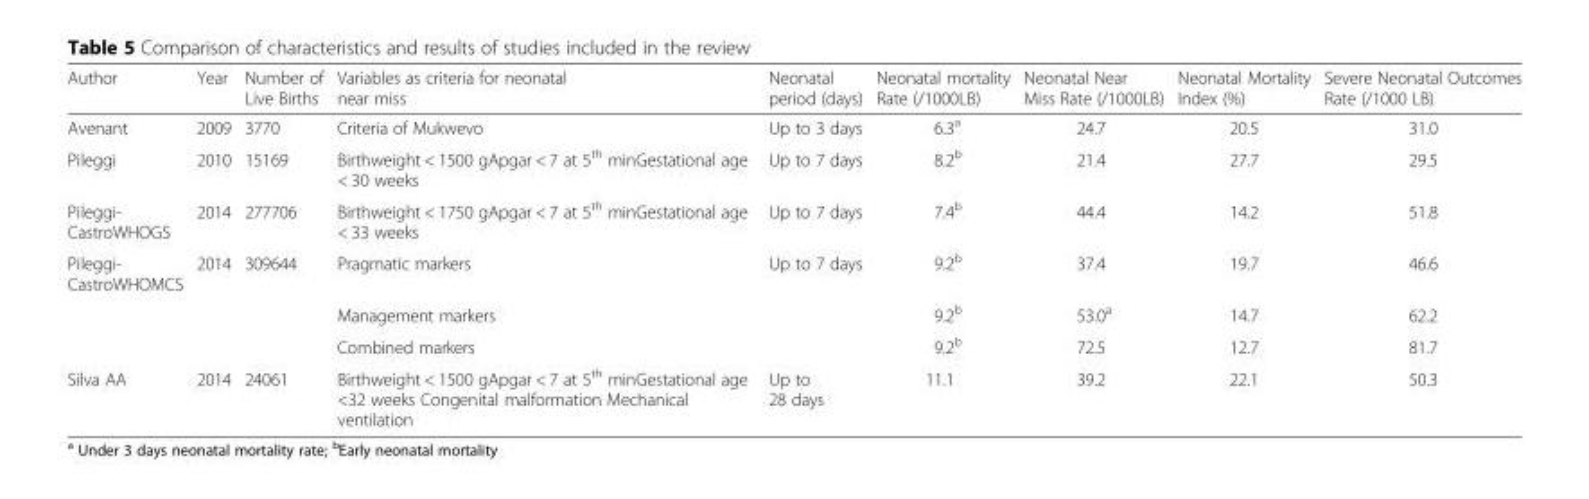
<table><thead><tr><td>Author</td><td>Year</td><td>Number of Live Births</td><td>Variables as criteria for neonatal near miss</td><td>Neonatal period (days)</td><td>Neonatal mortality Rate (/1000LB)</td><td>Neonatal Near Miss Rate (/1000LB)</td><td>Neonatal Mortality Index (%)</td><td>Severe Neonatal Outcomes Rate (/1000 LB)</td></tr></thead><tbody><tr><td>Avenant</td><td>2009</td><td>3770</td><td>Criteria of Mukwevo</td><td>Up to 3 days</td><td>6.3<sup>a</sup></td><td>24.7</td><td>20.5</td><td>31.0</td></tr><tr><td>Pileggi</td><td>2010</td><td>15169</td><td>Birthweight &lt; 1500 gApgar &lt; 7 at 5<sup>th</sup> minGestational age &lt; 30 weeks</td><td>Up to 7 days</td><td>8.2<sup>b</sup></td><td>21.4</td><td>27.7</td><td>29.5</td></tr><tr><td>Pileggi- CastroWHOGS</td><td>2014</td><td>277706</td><td>Birthweight &lt; 1750 gApgar &lt; 7 at 5<sup>th</sup> minGestational age &lt; 33 weeks</td><td>Up to 7 days</td><td>7.4<sup>b</sup></td><td>44.4</td><td>14.2</td><td>51.8</td></tr><tr><td rowspan="3">Pileggi- CastroWHOMCS</td><td>2014</td><td>309644</td><td>Pragmatic markers</td><td>Up to 7 days</td><td>9.2<sup>b</sup></td><td>37.4</td><td>19.7</td><td>46.6</td></tr><tr><td></td><td></td><td>Management markers</td><td></td><td>9.2<sup>b</sup></td><td>53.0<sup>a</sup></td><td>14.7</td><td>62.2</td></tr><tr><td></td><td></td><td>Combined markers</td><td></td><td>9.2<sup>b</sup></td><td>72.5</td><td>12.7</td><td>81.7</td></tr><tr><td>Silva AA</td><td>2014</td><td>24061</td><td>Birthweight &lt; 1500 gApgar &lt; 7 at 5<sup>th</sup> minGestational age &lt;32 weeks Congenital malformation Mechanical ventilation</td><td>Up to 28 days</td><td>11.1</td><td>39.2</td><td>22.1</td><td>50.3</td></tr></tbody></table>